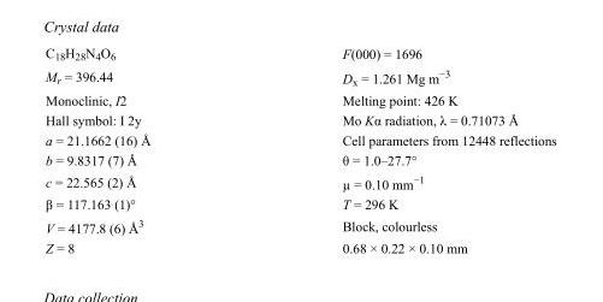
<table><tbody><tr><td>C<sub>18</sub>H<sub>28</sub>N<sub>4</sub>O<sub>6</sub></td><td>F(000) = 1696</td></tr><tr><td>M<sub>r</sub> = 396.44</td><td>D<sub>x</sub> = 1.261 Mg m<sup>−3</sup></td></tr><tr><td>Monoclinic, I2</td><td>Melting point: 426 K</td></tr><tr><td>Hall symbol: I 2y</td><td>Mo Kα radiation, λ = 0.71073 Å</td></tr><tr><td>a = 21.1662 (16) Å</td><td>Cell parameters from 12448 reflections</td></tr><tr><td>b = 9.8317 (7) Å</td><td>θ = 1.0–27.7°</td></tr><tr><td>c = 22.565 (2) Å</td><td>µ = 0.10 mm<sup>−1</sup></td></tr><tr><td>β = 117.163 (1)°</td><td>T = 296 K</td></tr><tr><td>V = 4177.8 (6) Å<sup>3</sup></td><td>Block, colourless</td></tr><tr><td>Z = 8</td><td>0.68 × 0.22 × 0.10 mm</td></tr></tbody></table>